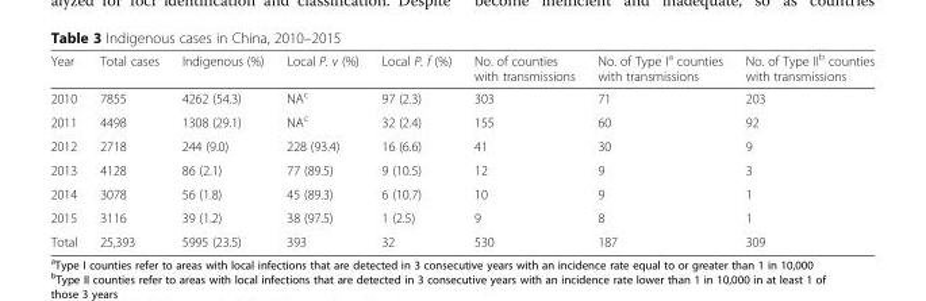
<table><thead><tr><td>Year</td><td>Total cases</td><td>Indigenous (%)</td><td>Local P. v (%)</td><td>Local P. f (%)</td><td>No. of counties with transmissions</td><td>No. of Type I<sup>a</sup> counties with transmissions</td><td>No. of Type II<sup>b</sup> counties with transmissions</td></tr></thead><tbody><tr><td>2010</td><td>7855</td><td>4262 (54.3)</td><td>NA<sup>c</sup></td><td>97 (2.3)</td><td>303</td><td>71</td><td>203</td></tr><tr><td>2011</td><td>4498</td><td>1308 (29.1)</td><td>NA<sup>c</sup></td><td>32 (2.4)</td><td>155</td><td>60</td><td>92</td></tr><tr><td>2012</td><td>2718</td><td>244 (9.0)</td><td>228 (93.4)</td><td>16 (6.6)</td><td>41</td><td>30</td><td>9</td></tr><tr><td>2013</td><td>4128</td><td>86 (2.1)</td><td>77 (89.5)</td><td>9 (10.5)</td><td>12</td><td>9</td><td>3</td></tr><tr><td>2014</td><td>3078</td><td>56 (1.8)</td><td>45 (89.3)</td><td>6 (10.7)</td><td>10</td><td>9</td><td>1</td></tr><tr><td>2015</td><td>3116</td><td>39 (1.2)</td><td>38 (97.5)</td><td>1 (2.5)</td><td>9</td><td>8</td><td>1</td></tr><tr><td>Total</td><td>25,393</td><td>5995 (23.5)</td><td>393</td><td>32</td><td>530</td><td>187</td><td>309</td></tr></tbody></table>